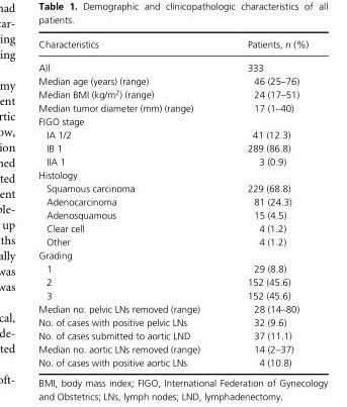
<table><thead><tr><td>Characteristics</td><td>Patients, n (%)</td></tr></thead><tbody><tr><td>All</td><td>333</td></tr><tr><td>Median age (years) (range)</td><td>46 (25–76)</td></tr><tr><td>Median BMI (kg/m<sup>2</sup>) (range)</td><td>24 (17–51)</td></tr><tr><td>Median tumor diameter (mm) (range)</td><td>17 (1–40)</td></tr><tr><td colspan="2">FIGO stage</td></tr><tr><td>IA 1/2</td><td>41 (12.3)</td></tr><tr><td>IB 1</td><td>289 (86.8)</td></tr><tr><td>IIA 1</td><td>3 (0.9)</td></tr><tr><td colspan="2">Histology</td></tr><tr><td>Squamous carcinoma</td><td>229 (68.8)</td></tr><tr><td>Adenocarcinoma</td><td>81 (24.3)</td></tr><tr><td>Adenosquamous</td><td>15 (4.5)</td></tr><tr><td>Clear cell</td><td>4 (1.2)</td></tr><tr><td>Other</td><td>4 (1.2)</td></tr><tr><td colspan="2">Grading</td></tr><tr><td>1</td><td>29 (8.8)</td></tr><tr><td>2</td><td>152 (45.6)</td></tr><tr><td>3</td><td>152 (45.6)</td></tr><tr><td>Median no. pelvic LNs removed (range)</td><td>28 (14–80)</td></tr><tr><td>No. of cases with positive pelvic LNs</td><td>32 (9.6)</td></tr><tr><td>No. of cases submitted to aortic LND</td><td>37 (11.1)</td></tr><tr><td>Median no. aortic LNs removed (range)</td><td>14 (2–37)</td></tr><tr><td>No. of cases with positive aortic LNs</td><td>4 (10.8)</td></tr></tbody></table>